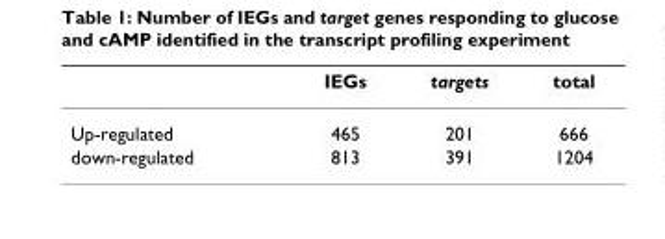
<table><thead><tr><td></td><td>IEGs</td><td>targets</td><td>total</td></tr></thead><tbody><tr><td>Up-regulated</td><td>465</td><td>201</td><td>666</td></tr><tr><td>down-regulated</td><td>813</td><td>391</td><td>1204</td></tr></tbody></table>